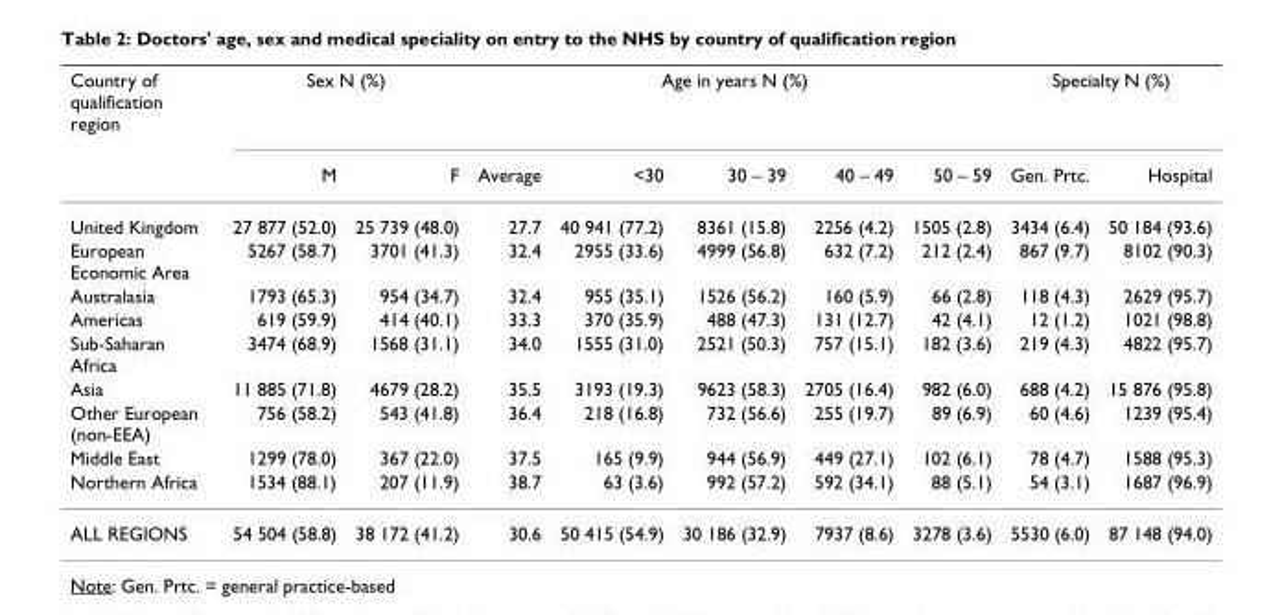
<table><thead><tr><td rowspan="2">Country of qualification region</td><td colspan="2">Sex N (%)</td><td colspan="5">Age in years N (%)</td><td colspan="2">Specialty N (%)</td></tr><tr><td>M</td><td>F</td><td>Average</td><td>&lt;30</td><td>30 – 39</td><td>40 – 49</td><td>50 – 59</td><td>Gen. Prtc.</td><td>Hospital</td></tr></thead><tbody><tr><td>United Kingdom</td><td>27 877 (52.0)</td><td>25 739 (48.0)</td><td>27.7</td><td>40 941 (77.2)</td><td>8361 (15.8)</td><td>2256 (4.2)</td><td>1505 (2.8)</td><td>3434 (6.4)</td><td>50 184 (93.6)</td></tr><tr><td>European Economic Area</td><td>5267 (58.7)</td><td>3701 (41.3)</td><td>32.4</td><td>2955 (33.6)</td><td>4999 (56.8)</td><td>632 (7.2)</td><td>212 (2.4)</td><td>867 (9.7)</td><td>8102 (90.3)</td></tr><tr><td>Australasia</td><td>1793 (65.3)</td><td>954 (34.7)</td><td>32.4</td><td>955 (35.1)</td><td>1526 (56.2)</td><td>160 (5.9)</td><td>66 (2.8)</td><td>118 (4.3)</td><td>2629 (95.7)</td></tr><tr><td>Americas</td><td>619 (59.9)</td><td>414 (40.1)</td><td>33.3</td><td>370 (35.9)</td><td>488 (47.3)</td><td>131 (12.7)</td><td>42 (4.1)</td><td>12 (1.2)</td><td>1021 (98.8)</td></tr><tr><td>Sub-Saharan Africa</td><td>3474 (68.9)</td><td>1568 (31.1)</td><td>34.0</td><td>1555 (31.0)</td><td>2521 (50.3)</td><td>757 (15.1)</td><td>182 (3.6)</td><td>219 (4.3)</td><td>4822 (95.7)</td></tr><tr><td>Asia</td><td>11 885 (71.8)</td><td>4679 (28.2)</td><td>35.5</td><td>3193 (19.3)</td><td>9623 (58.3)</td><td>2705 (16.4)</td><td>982 (6.0)</td><td>688 (4.2)</td><td>15 876 (95.8)</td></tr><tr><td>Other European (non-EEA)</td><td>756 (58.2)</td><td>543 (41.8)</td><td>36.4</td><td>218 (16.8)</td><td>732 (56.6)</td><td>255 (19.7)</td><td>89 (6.9)</td><td>60 (4.6)</td><td>1239 (95.4)</td></tr><tr><td>Middle East</td><td>1299 (78.0)</td><td>367 (22.0)</td><td>37.5</td><td>165 (9.9)</td><td>944 (56.9)</td><td>449 (27.1)</td><td>102 (6.1)</td><td>78 (4.7)</td><td>1588 (95.3)</td></tr><tr><td>Northern Africa</td><td>1534 (88.1)</td><td>207 (11.9)</td><td>38.7</td><td>63 (3.6)</td><td>992 (57.2)</td><td>592 (34.1)</td><td>88 (5.1)</td><td>54 (3.1)</td><td>1687 (96.9)</td></tr><tr><td>ALL REGIONS</td><td>54 504 (58.8)</td><td>38 172 (41.2)</td><td>30.6</td><td>50 415 (54.9)</td><td>30 186 (32.9)</td><td>7937 (8.6)</td><td>3278 (3.6)</td><td>5530 (6.0)</td><td>87 148 (94.0)</td></tr></tbody></table>